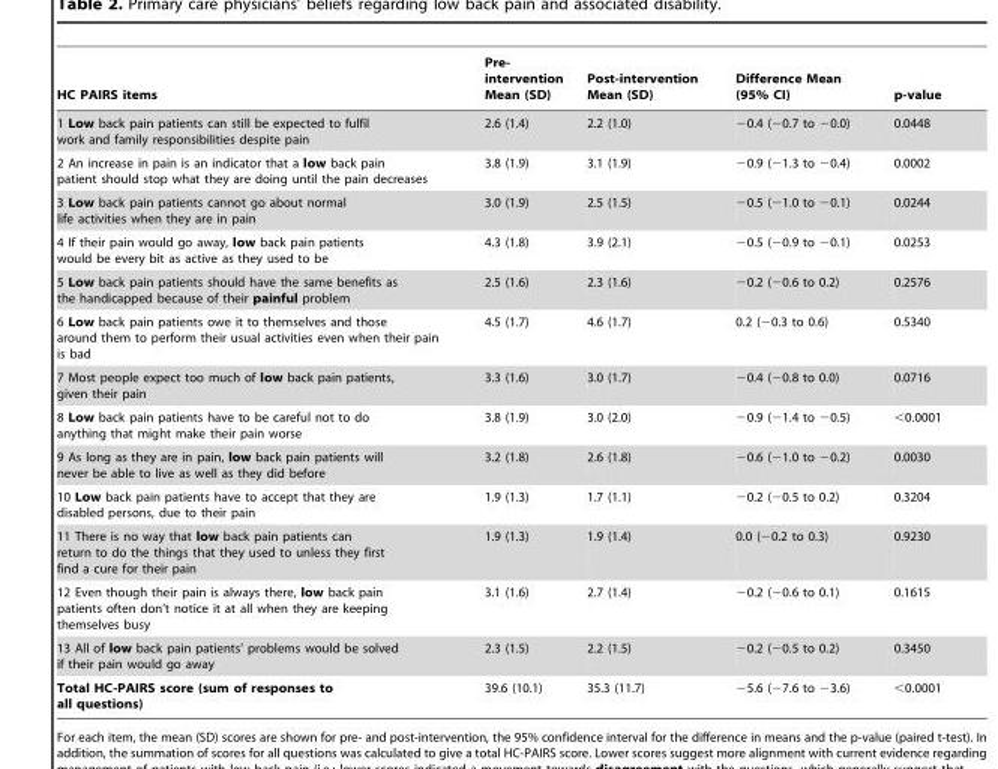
<table><thead><tr><td>HC PAIRS items</td><td>Pre- intervention Mean (SD)</td><td>Post-intervention Mean (SD)</td><td>Difference Mean (95% CI)</td><td>p-value</td></tr></thead><tbody><tr><td>1 Low back pain patients can still be expected to fulfil work and family responsibilities despite pain</td><td>2.6 (1.4)</td><td>2.2 (1.0)</td><td>−0.4 (−0.7 to −0.0)</td><td>0.0448</td></tr><tr><td>2 An increase in pain is an indicator that a low back pain patient should stop what they are doing until the pain decreases</td><td>3.8 (1.9)</td><td>3.1 (1.9)</td><td>−0.9 (−1.3 to −0.4)</td><td>0.0002</td></tr><tr><td>3 Low back pain patients cannot go about normal life activities when they are in pain</td><td>3.0 (1.9)</td><td>2.5 (1.5)</td><td>−0.5 (−1.0 to −0.1)</td><td>0.0244</td></tr><tr><td>4 If their pain would go away, low back pain patients would be every bit as active as they used to be</td><td>4.3 (1.8)</td><td>3.9 (2.1)</td><td>−0.5 (−0.9 to −0.1)</td><td>0.0253</td></tr><tr><td>5 Low back pain patients should have the same benefits as the handicapped because of their painful problem</td><td>2.5 (1.6)</td><td>2.3 (1.6)</td><td>−0.2 (−0.6 to 0.2)</td><td>0.2576</td></tr><tr><td>6 Low back pain patients owe it to themselves and those around them to perform their usual activities even when their pain is bad</td><td>4.5 (1.7)</td><td>4.6 (1.7)</td><td>0.2 (−0.3 to 0.6)</td><td>0.5340</td></tr><tr><td>7 Most people expect too much of low back pain patients, given their pain</td><td>3.3 (1.6)</td><td>3.0 (1.7)</td><td>−0.4 (−0.8 to 0.0)</td><td>0.0716</td></tr><tr><td>8 Low back pain patients have to be careful not to do anything that might make their pain worse</td><td>3.8 (1.9)</td><td>3.0 (2.0)</td><td>−0.9 (−1.4 to −0.5)</td><td>&lt;0.0001</td></tr><tr><td>9 As long as they are in pain, low back pain patients will never be able to live as well as they did before</td><td>3.2 (1.8)</td><td>2.6 (1.8)</td><td>−0.6 (−1.0 to −0.2)</td><td>0.0030</td></tr><tr><td>10 Low back pain patients have to accept that they are disabled persons, due to their pain</td><td>1.9 (1.3)</td><td>1.7 (1.1)</td><td>−0.2 (−0.5 to 0.2)</td><td>0.3204</td></tr><tr><td>11 There is no way that low back pain patients can return to do the things that they used to unless they first find a cure for their pain</td><td>1.9 (1.3)</td><td>1.9 (1.4)</td><td>0.0 (−0.2 to 0.3)</td><td>0.9230</td></tr><tr><td>12 Even though their pain is always there, low back pain patients often don’t notice it at all when they are keeping themselves busy</td><td>3.1 (1.6)</td><td>2.7 (1.4)</td><td>−0.2 (−0.6 to 0.1)</td><td>0.1615</td></tr><tr><td>13 All of low back pain patients’ problems would be solved if their pain would go away</td><td>2.3 (1.5)</td><td>2.2 (1.5)</td><td>−0.2 (−0.5 to 0.2)</td><td>0.3450</td></tr><tr><td>Total HC-PAIRS score (sum of responses to all questions)</td><td>39.6 (10.1)</td><td>35.3 (11.7)</td><td>−5.6 (−7.6 to −3.6)</td><td>&lt;0.0001</td></tr></tbody></table>